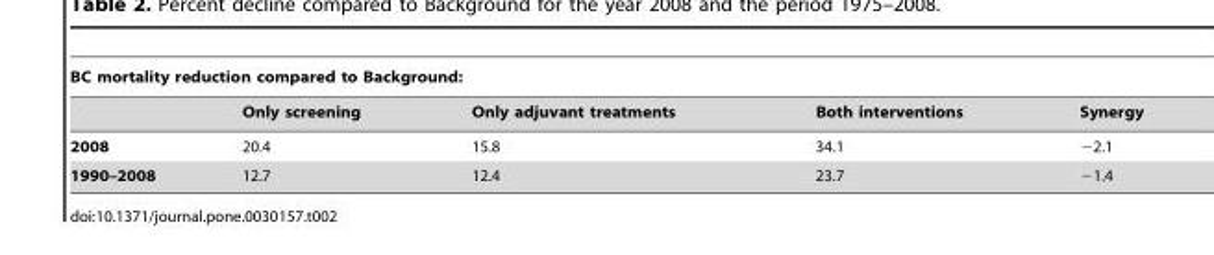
<table><thead><tr><td colspan="5">BC mortality reduction compared to Background:</td></tr><tr><td></td><td>Only screening</td><td>Only adjuvant treatments</td><td>Both interventions</td><td>Synergy</td></tr></thead><tbody><tr><td>2008</td><td>20.4</td><td>15.8</td><td>34.1</td><td>−2.1</td></tr><tr><td>1990–2008</td><td>12.7</td><td>12.4</td><td>23.7</td><td>−1.4</td></tr></tbody></table>